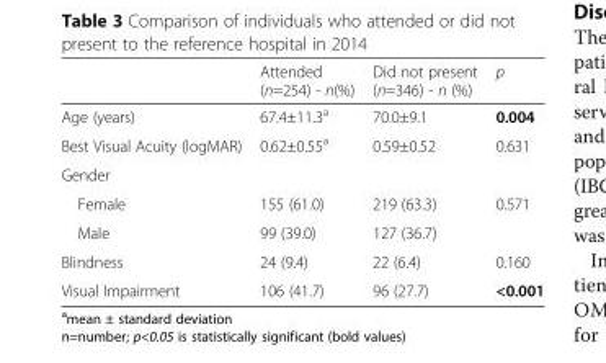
<table><thead><tr><td></td><td>Attended (n=254) - n(%)</td><td>Did not present (n=346) - n (%)</td><td>p</td></tr></thead><tbody><tr><td>Age (years)</td><td>67.4±11.3<sup>a</sup></td><td>70.0±9.1</td><td>0.004</td></tr><tr><td>Best Visual Acuity (logMAR)</td><td>0.62±0.55<sup>a</sup></td><td>0.59±0.52</td><td>0.631</td></tr><tr><td colspan="4">Gender</td></tr><tr><td>Female</td><td>155 (61.0)</td><td>219 (63.3)</td><td rowspan="2">0.571</td></tr><tr><td>Male</td><td>99 (39.0)</td><td>127 (36.7)</td></tr><tr><td>Blindness</td><td>24 (9.4)</td><td>22 (6.4)</td><td>0.160</td></tr><tr><td>Visual Impairment</td><td>106 (41.7)</td><td>96 (27.7)</td><td>&lt;0.001</td></tr></tbody></table>